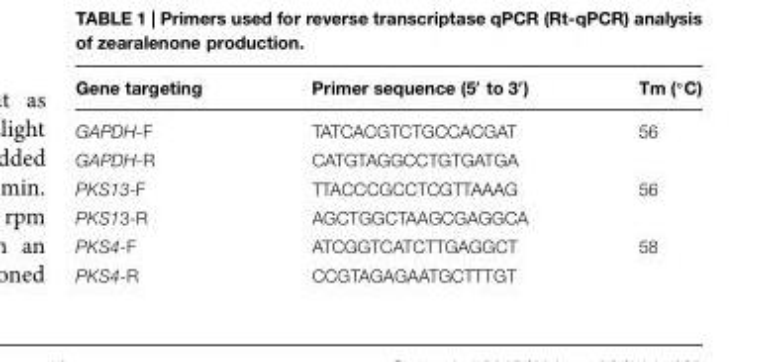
<table><thead><tr><td>Gene targeting</td><td>Primer sequence (5′ to 3′)</td><td>Tm (◦C)</td></tr></thead><tbody><tr><td>GAPDH-F</td><td>TATCACGTCTGCCACGAT</td><td>56</td></tr><tr><td>GAPDH-R</td><td>CATGTAGGCCTGTGATGA</td><td></td></tr><tr><td>PKS13-F</td><td>TTACCCGCCTCGTTAAAG</td><td>56</td></tr><tr><td>PKS13-R</td><td>AGCTGGCTAAGCGAGGCA</td><td></td></tr><tr><td>PKS4-F</td><td>ATCGGTCATCTTGAGGCT</td><td>58</td></tr><tr><td>PKS4-R</td><td>CCGTAGAGAATGCTTTGT</td><td></td></tr></tbody></table>